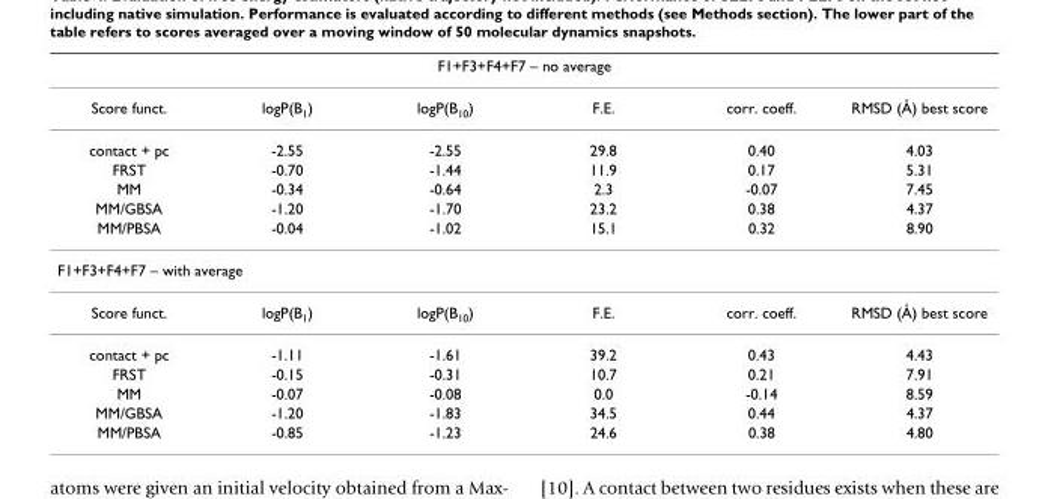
<table><thead><tr><td colspan="6">F1+F3+F4+F7 – no average</td></tr><tr><td>Score funct.</td><td>logP(B<sub>1</sub>)</td><td>logP(B<sub>10</sub>)</td><td>F.E.</td><td>corr. coeff.</td><td>RMSD (Å) best score</td></tr></thead><tbody><tr><td>contact + pc</td><td>-2.55</td><td>-2.55</td><td>29.8</td><td>0.40</td><td>4.03</td></tr><tr><td>FRST</td><td>-0.70</td><td>-1.44</td><td>11.9</td><td>0.17</td><td>5.31</td></tr><tr><td>MM</td><td>-0.34</td><td>-0.64</td><td>2.3</td><td>-0.07</td><td>7.45</td></tr><tr><td>MM/GBSA</td><td>-1.20</td><td>-1.70</td><td>23.2</td><td>0.38</td><td>4.37</td></tr><tr><td>MM/PBSA</td><td>-0.04</td><td>-1.02</td><td>15.1</td><td>0.32</td><td>8.90</td></tr><tr><td colspan="6">F1+F3+F4+F7 – with average</td></tr><tr><td>Score funct.</td><td>logP(B<sub>1</sub>)</td><td>logP(B<sub>10</sub>)</td><td>F.E.</td><td>corr. coeff.</td><td>RMSD (Å) best score</td></tr><tr><td>contact + pc</td><td>-1.11</td><td>-1.61</td><td>39.2</td><td>0.43</td><td>4.43</td></tr><tr><td>FRST</td><td>-0.15</td><td>-0.31</td><td>10.7</td><td>0.21</td><td>7.91</td></tr><tr><td>MM</td><td>-0.07</td><td>-0.08</td><td>0.0</td><td>-0.14</td><td>8.59</td></tr><tr><td>MM/GBSA</td><td>-1.20</td><td>-1.83</td><td>34.5</td><td>0.44</td><td>4.37</td></tr><tr><td>MM/PBSA</td><td>-0.85</td><td>-1.23</td><td>24.6</td><td>0.38</td><td>4.80</td></tr></tbody></table>